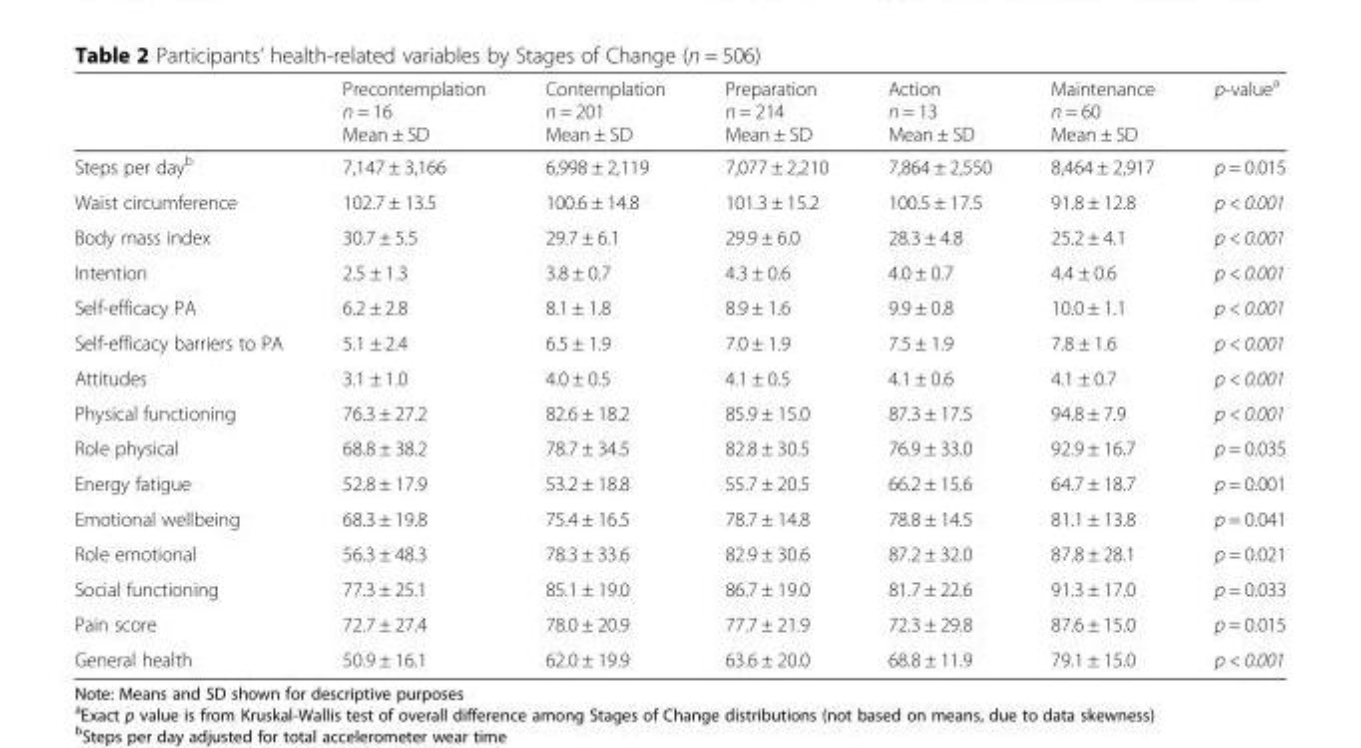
<table><thead><tr><td></td><td>Precontemplation n = 16 Mean ± SD</td><td>Contemplation n = 201 Mean ± SD</td><td>Preparation n = 214 Mean ± SD</td><td>Action n = 13 Mean ± SD</td><td>Maintenance n = 60 Mean ± SD</td><td>p-value<sup>a</sup></td></tr></thead><tbody><tr><td>Steps per day<sup>b</sup></td><td>7,147 ± 3,166</td><td>6,998 ± 2,119</td><td>7,077 ± 2,210</td><td>7,864 ± 2,550</td><td>8,464 ± 2,917</td><td>p = 0.015</td></tr><tr><td>Waist circumference</td><td>102.7 ± 13.5</td><td>100.6 ± 14.8</td><td>101.3 ± 15.2</td><td>100.5 ± 17.5</td><td>91.8 ± 12.8</td><td>p &lt; 0.001</td></tr><tr><td>Body mass index</td><td>30.7 ± 5.5</td><td>29.7 ± 6.1</td><td>29.9 ± 6.0</td><td>28.3 ± 4.8</td><td>25.2 ± 4.1</td><td>p &lt; 0.001</td></tr><tr><td>Intention</td><td>2.5 ± 1.3</td><td>3.8 ± 0.7</td><td>4.3 ± 0.6</td><td>4.0 ± 0.7</td><td>4.4 ± 0.6</td><td>p &lt; 0.001</td></tr><tr><td>Self-efficacy PA</td><td>6.2 ± 2.8</td><td>8.1 ± 1.8</td><td>8.9 ± 1.6</td><td>9.9 ± 0.8</td><td>10.0 ± 1.1</td><td>p &lt; 0.001</td></tr><tr><td>Self-efficacy barriers to PA</td><td>5.1 ± 2.4</td><td>6.5 ± 1.9</td><td>7.0 ± 1.9</td><td>7.5 ± 1.9</td><td>7.8 ± 1.6</td><td>p &lt; 0.001</td></tr><tr><td>Attitudes</td><td>3.1 ± 1.0</td><td>4.0 ± 0.5</td><td>4.1 ± 0.5</td><td>4.1 ± 0.6</td><td>4.1 ± 0.7</td><td>p &lt; 0.001</td></tr><tr><td>Physical functioning</td><td>76.3 ± 27.2</td><td>82.6 ± 18.2</td><td>85.9 ± 15.0</td><td>87.3 ± 17.5</td><td>94.8 ± 7.9</td><td>p &lt; 0.001</td></tr><tr><td>Role physical</td><td>68.8 ± 38.2</td><td>78.7 ± 34.5</td><td>82.8 ± 30.5</td><td>76.9 ± 33.0</td><td>92.9 ± 16.7</td><td>p = 0.035</td></tr><tr><td>Energy fatigue</td><td>52.8 ± 17.9</td><td>53.2 ± 18.8</td><td>55.7 ± 20.5</td><td>66.2 ± 15.6</td><td>64.7 ± 18.7</td><td>p = 0.001</td></tr><tr><td>Emotional wellbeing</td><td>68.3 ± 19.8</td><td>75.4 ± 16.5</td><td>78.7 ± 14.8</td><td>78.8 ± 14.5</td><td>81.1 ± 13.8</td><td>p = 0.041</td></tr><tr><td>Role emotional</td><td>56.3 ± 48.3</td><td>78.3 ± 33.6</td><td>82.9 ± 30.6</td><td>87.2 ± 32.0</td><td>87.8 ± 28.1</td><td>p = 0.021</td></tr><tr><td>Social functioning</td><td>77.3 ± 25.1</td><td>85.1 ± 19.0</td><td>86.7 ± 19.0</td><td>81.7 ± 22.6</td><td>91.3 ± 17.0</td><td>p = 0.033</td></tr><tr><td>Pain score</td><td>72.7 ± 27.4</td><td>78.0 ± 20.9</td><td>77.7 ± 21.9</td><td>72.3 ± 29.8</td><td>87.6 ± 15.0</td><td>p = 0.015</td></tr><tr><td>General health</td><td>50.9 ± 16.1</td><td>62.0 ± 19.9</td><td>63.6 ± 20.0</td><td>68.8 ± 11.9</td><td>79.1 ± 15.0</td><td>p &lt; 0.001</td></tr></tbody></table>